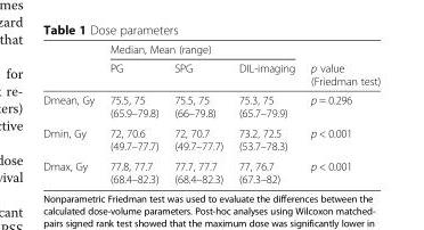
<table><thead><tr><td rowspan="2"></td><td colspan="3">Median, Mean (range)</td><td rowspan="2">p value (Friedman test)</td></tr><tr><td>PG</td><td>SPG</td><td>DIL-imaging</td></tr></thead><tbody><tr><td>Dmean, Gy</td><td>75.5, 75 (65.9–79.8)</td><td>75.5, 75 (66–79.8)</td><td>75.3, 75 (65.7–79.9)</td><td>p = 0.296</td></tr><tr><td>Dmin, Gy</td><td>72, 70.6 (49.7–77.7)</td><td>72, 70.7 (49.7–77.7)</td><td>73.2, 72.5 (53.7–78.3)</td><td>p &lt; 0.001</td></tr><tr><td>Dmax, Gy</td><td>77.8, 77.7 (68.4–82.3)</td><td>77.7, 77.7 (68.4–82.3)</td><td>77, 76.7 (67.3–82)</td><td>p &lt; 0.001</td></tr></tbody></table>